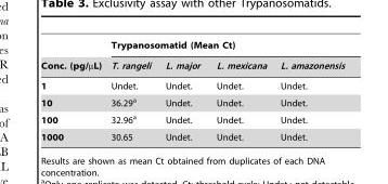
<table><thead><tr><td rowspan="2">Conc. (pg/µL)</td><td colspan="4">Trypanosomatid (Mean Ct)</td></tr><tr><td>T. rangeli</td><td>L. major</td><td>L. mexicana</td><td>L. amazonensis</td></tr></thead><tbody><tr><td>1</td><td>Undet.</td><td>Undet.</td><td>Undet.</td><td>Undet.</td></tr><tr><td>10</td><td>36.29<sup>a</sup></td><td>Undet.</td><td>Undet.</td><td>Undet.</td></tr><tr><td>100</td><td>32.96<sup>a</sup></td><td>Undet.</td><td>Undet.</td><td>Undet.</td></tr><tr><td>1000</td><td>30.65</td><td>Undet.</td><td>Undet.</td><td>Undet.</td></tr></tbody></table>